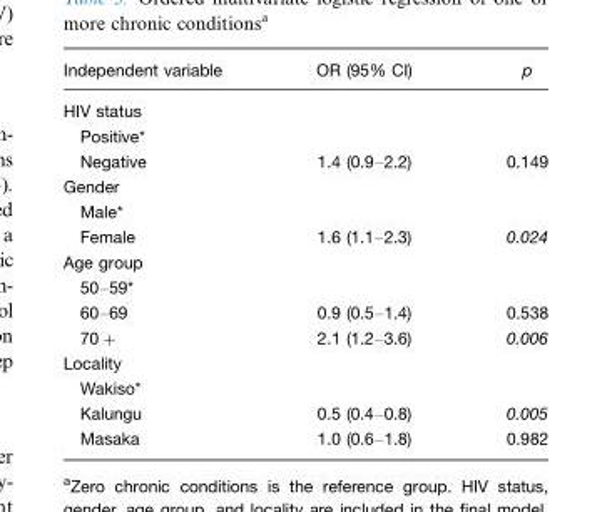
<table><thead><tr><td>Independent variable</td><td>OR (95% CI)</td><td>p</td></tr></thead><tbody><tr><td colspan="3">HIV status</td></tr><tr><td colspan="3">Positive*</td></tr><tr><td>Negative</td><td>1.4 (0.9–2.2)</td><td>0.149</td></tr><tr><td colspan="3">Gender</td></tr><tr><td colspan="3">Male*</td></tr><tr><td>Female</td><td>1.6 (1.1–2.3)</td><td>0.024</td></tr><tr><td colspan="3">Age group</td></tr><tr><td colspan="3">50–59*</td></tr><tr><td>60–69</td><td>0.9 (0.5–1.4)</td><td>0.538</td></tr><tr><td>70+</td><td>2.1 (1.2–3.6)</td><td>0.006</td></tr><tr><td colspan="3">Locality</td></tr><tr><td colspan="3">Wakiso*</td></tr><tr><td>Kalungu</td><td>0.5 (0.4–0.8)</td><td>0.005</td></tr><tr><td>Masaka</td><td>1.0 (0.6–1.8)</td><td>0.982</td></tr></tbody></table>